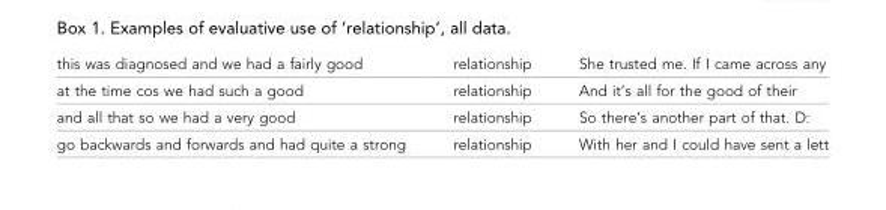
<table><tbody><tr><td>this was diagnosed and we had a fairly good</td><td>relationship</td><td>She trusted me. If I came across any</td></tr><tr><td>at the time cos we had such a good</td><td>relationship</td><td>And it’s all for the good of their</td></tr><tr><td>and all that so we had a very good</td><td>relationship</td><td>So there’s another part of that. D:</td></tr><tr><td>go backwards and forwards and had quite a strong</td><td>relationship</td><td>With her and I could have sent a lett</td></tr></tbody></table>